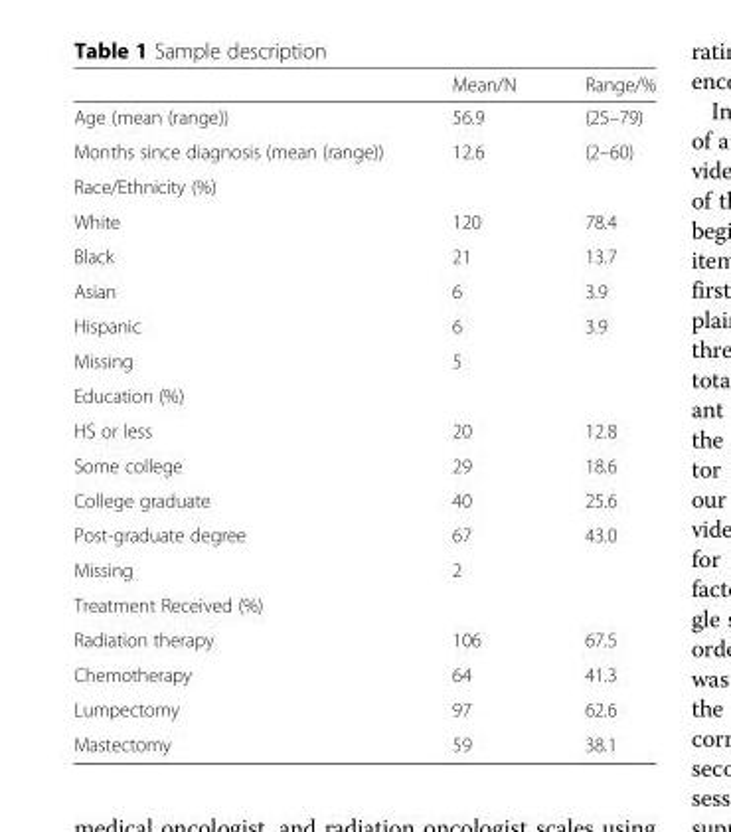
<table><thead><tr><td></td><td>Mean/N</td><td>Range/%</td></tr></thead><tbody><tr><td>Age (mean (range))</td><td>56.9</td><td>(25–79)</td></tr><tr><td>Months since diagnosis (mean (range))</td><td>12.6</td><td>(2–60)</td></tr><tr><td colspan="3">Race/Ethnicity (%)</td></tr><tr><td>White</td><td>120</td><td>78.4</td></tr><tr><td>Black</td><td>21</td><td>13.7</td></tr><tr><td>Asian</td><td>6</td><td>3.9</td></tr><tr><td>Hispanic</td><td>6</td><td>3.9</td></tr><tr><td>Missing</td><td>5</td><td></td></tr><tr><td colspan="3">Education (%)</td></tr><tr><td>HS or less</td><td>20</td><td>12.8</td></tr><tr><td>Some college</td><td>29</td><td>18.6</td></tr><tr><td>College graduate</td><td>40</td><td>25.6</td></tr><tr><td>Post-graduate degree</td><td>67</td><td>43.0</td></tr><tr><td>Missing</td><td>2</td><td></td></tr><tr><td colspan="3">Treatment Received (%)</td></tr><tr><td>Radiation therapy</td><td>106</td><td>67.5</td></tr><tr><td>Chemotherapy</td><td>64</td><td>41.3</td></tr><tr><td>Lumpectomy</td><td>97</td><td>62.6</td></tr><tr><td>Mastectomy</td><td>59</td><td>38.1</td></tr></tbody></table>